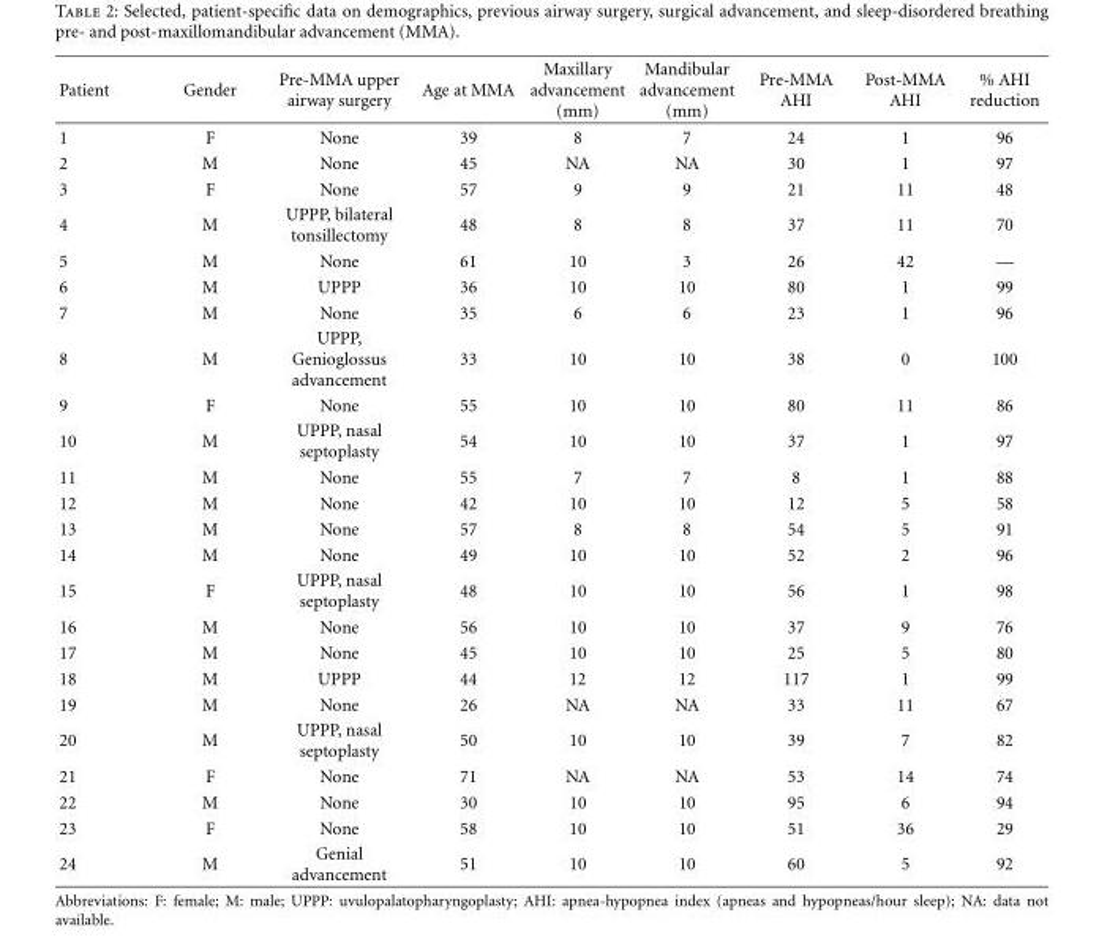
<table><thead><tr><td>Patient</td><td>Gender</td><td>Pre-MMA upper airway surgery</td><td>Age at MMA</td><td>Maxillary advancement (mm)</td><td>Mandibular advancement (mm)</td><td>Pre-MMA AHI</td><td>Post-MMA AHI</td><td>% AHI reduction</td></tr></thead><tbody><tr><td>1</td><td>F</td><td>None</td><td>39</td><td>8</td><td>7</td><td>24</td><td>1</td><td>96</td></tr><tr><td>2</td><td>M</td><td>None</td><td>45</td><td>NA</td><td>NA</td><td>30</td><td>1</td><td>97</td></tr><tr><td>3</td><td>F</td><td>None</td><td>57</td><td>9</td><td>9</td><td>21</td><td>11</td><td>48</td></tr><tr><td>4</td><td>M</td><td>UPPP, bilateral tonsillectomy</td><td>48</td><td>8</td><td>8</td><td>37</td><td>11</td><td>70</td></tr><tr><td>5</td><td>M</td><td>None</td><td>61</td><td>10</td><td>3</td><td>26</td><td>42</td><td>—</td></tr><tr><td>6</td><td>M</td><td>UPPP</td><td>36</td><td>10</td><td>10</td><td>80</td><td>1</td><td>99</td></tr><tr><td>7</td><td>M</td><td>None</td><td>35</td><td>6</td><td>6</td><td>23</td><td>1</td><td>96</td></tr><tr><td>8</td><td>M</td><td>UPPP, Genioglossus advancement</td><td>33</td><td>10</td><td>10</td><td>38</td><td>0</td><td>100</td></tr><tr><td>9</td><td>F</td><td>None</td><td>55</td><td>10</td><td>10</td><td>80</td><td>11</td><td>86</td></tr><tr><td>10</td><td>M</td><td>UPPP, nasal septoplasty</td><td>54</td><td>10</td><td>10</td><td>37</td><td>1</td><td>97</td></tr><tr><td>11</td><td>M</td><td>None</td><td>55</td><td>7</td><td>7</td><td>8</td><td>1</td><td>88</td></tr><tr><td>12</td><td>M</td><td>None</td><td>42</td><td>10</td><td>10</td><td>12</td><td>5</td><td>58</td></tr><tr><td>13</td><td>M</td><td>None</td><td>57</td><td>8</td><td>8</td><td>54</td><td>5</td><td>91</td></tr><tr><td>14</td><td>M</td><td>None</td><td>49</td><td>10</td><td>10</td><td>52</td><td>2</td><td>96</td></tr><tr><td>15</td><td>F</td><td>UPPP, nasal septoplasty</td><td>48</td><td>10</td><td>10</td><td>56</td><td>1</td><td>98</td></tr><tr><td>16</td><td>M</td><td>None</td><td>56</td><td>10</td><td>10</td><td>37</td><td>9</td><td>76</td></tr><tr><td>17</td><td>M</td><td>None</td><td>45</td><td>10</td><td>10</td><td>25</td><td>5</td><td>80</td></tr><tr><td>18</td><td>M</td><td>UPPP</td><td>44</td><td>12</td><td>12</td><td>117</td><td>1</td><td>99</td></tr><tr><td>19</td><td>M</td><td>None</td><td>26</td><td>NA</td><td>NA</td><td>33</td><td>11</td><td>67</td></tr><tr><td>20</td><td>M</td><td>UPPP, nasal septoplasty</td><td>50</td><td>10</td><td>10</td><td>39</td><td>7</td><td>82</td></tr><tr><td>21</td><td>F</td><td>None</td><td>71</td><td>NA</td><td>NA</td><td>53</td><td>14</td><td>74</td></tr><tr><td>22</td><td>M</td><td>None</td><td>30</td><td>10</td><td>10</td><td>95</td><td>6</td><td>94</td></tr><tr><td>23</td><td>F</td><td>None</td><td>58</td><td>10</td><td>10</td><td>51</td><td>36</td><td>29</td></tr><tr><td>24</td><td>M</td><td>Genial advancement</td><td>51</td><td>10</td><td>10</td><td>60</td><td>5</td><td>92</td></tr></tbody></table>